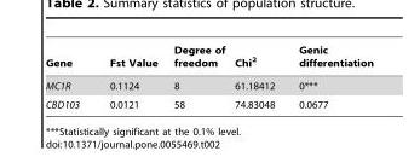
<table><thead><tr><td>Gene</td><td>Fst Value</td><td>Degree of freedom</td><td>Chi<sup>2</sup></td><td>Genic differentiation</td></tr></thead><tbody><tr><td>MC1R</td><td>0.1124</td><td>8</td><td>61.18412</td><td>0***</td></tr><tr><td>CBD103</td><td>0.0121</td><td>58</td><td>74.83048</td><td>0.0677</td></tr></tbody></table>